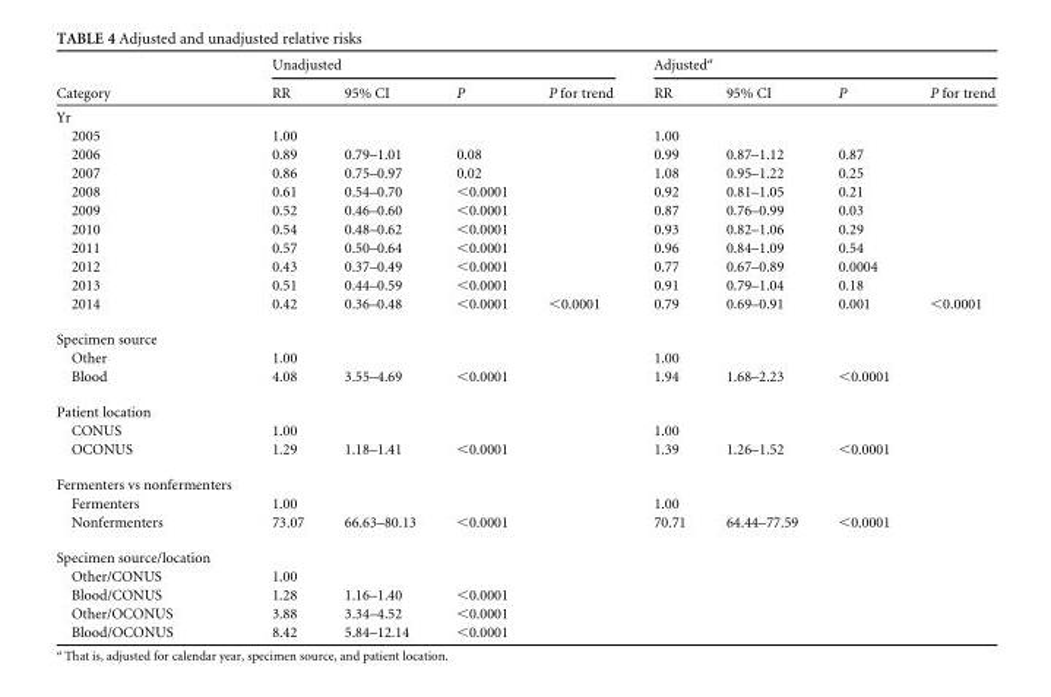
<table><thead><tr><td rowspan="2">Category</td><td colspan="4">Unadjusted</td><td colspan="4">Adjusted<sup>a</sup></td></tr><tr><td>RR</td><td>95% CI</td><td>P</td><td>P for trend</td><td>RR</td><td>95% CI</td><td>P</td><td>P for trend</td></tr></thead><tbody><tr><td colspan="9">Yr</td></tr><tr><td>2005</td><td>1.00</td><td></td><td></td><td></td><td>1.00</td><td></td><td></td><td></td></tr><tr><td>2006</td><td>0.89</td><td>0.79–1.01</td><td>0.08</td><td></td><td>0.99</td><td>0.87–1.12</td><td>0.87</td><td></td></tr><tr><td>2007</td><td>0.86</td><td>0.75–0.97</td><td>0.02</td><td></td><td>1.08</td><td>0.95–1.22</td><td>0.25</td><td></td></tr><tr><td>2008</td><td>0.61</td><td>0.54–0.70</td><td>&lt;0.0001</td><td></td><td>0.92</td><td>0.81–1.05</td><td>0.21</td><td></td></tr><tr><td>2009</td><td>0.52</td><td>0.46–0.60</td><td>&lt;0.0001</td><td></td><td>0.87</td><td>0.76–0.99</td><td>0.03</td><td></td></tr><tr><td>2010</td><td>0.54</td><td>0.48–0.62</td><td>&lt;0.0001</td><td></td><td>0.93</td><td>0.82–1.06</td><td>0.29</td><td></td></tr><tr><td>2011</td><td>0.57</td><td>0.50–0.64</td><td>&lt;0.0001</td><td></td><td>0.96</td><td>0.84–1.09</td><td>0.54</td><td></td></tr><tr><td>2012</td><td>0.43</td><td>0.37–0.49</td><td>&lt;0.0001</td><td></td><td>0.77</td><td>0.67–0.89</td><td>0.0004</td><td></td></tr><tr><td>2013</td><td>0.51</td><td>0.44–0.59</td><td>&lt;0.0001</td><td></td><td>0.91</td><td>0.79–1.04</td><td>0.18</td><td></td></tr><tr><td>2014</td><td>0.42</td><td>0.36–0.48</td><td>&lt;0.0001</td><td>&lt;0.0001</td><td>0.79</td><td>0.69–0.91</td><td>0.001</td><td>&lt;0.0001</td></tr><tr><td colspan="9">Specimen source</td></tr><tr><td>Other</td><td>1.00</td><td></td><td></td><td></td><td>1.00</td><td></td><td></td><td></td></tr><tr><td>Blood</td><td>4.08</td><td>3.55–4.69</td><td>&lt;0.0001</td><td></td><td>1.94</td><td>1.68–2.23</td><td>&lt;0.0001</td><td></td></tr><tr><td colspan="9">Patient location</td></tr><tr><td>CONUS</td><td>1.00</td><td></td><td></td><td></td><td>1.00</td><td></td><td></td><td></td></tr><tr><td>OCONUS</td><td>1.29</td><td>1.18–1.41</td><td>&lt;0.0001</td><td></td><td>1.39</td><td>1.26–1.52</td><td>&lt;0.0001</td><td></td></tr><tr><td colspan="9">Fermenters vs nonfermenters</td></tr><tr><td>Fermenters</td><td>1.00</td><td></td><td></td><td></td><td>1.00</td><td></td><td></td><td></td></tr><tr><td>Nonfermenters</td><td>73.07</td><td>66.63–80.13</td><td>&lt;0.0001</td><td></td><td>70.71</td><td>64.44–77.59</td><td>&lt;0.0001</td><td></td></tr><tr><td colspan="9">Specimen source/location</td></tr><tr><td>Other/CONUS</td><td>1.00</td><td></td><td></td><td></td><td></td><td></td><td></td><td></td></tr><tr><td>Blood/CONUS</td><td>1.28</td><td>1.16–1.40</td><td>&lt;0.0001</td><td></td><td></td><td></td><td></td><td></td></tr><tr><td>Other/OCONUS</td><td>3.88</td><td>3.34–4.52</td><td>&lt;0.0001</td><td></td><td></td><td></td><td></td><td></td></tr><tr><td>Blood/OCONUS</td><td>8.42</td><td>5.84–12.14</td><td>&lt;0.0001</td><td></td><td></td><td></td><td></td><td></td></tr></tbody></table>